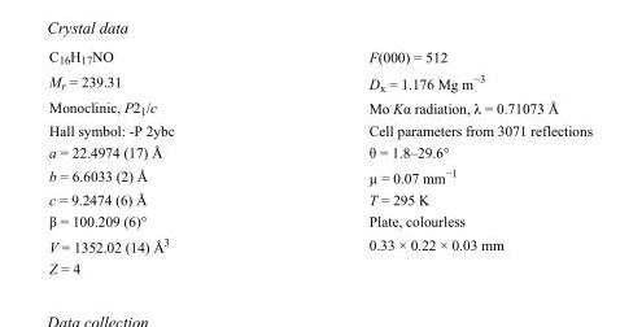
<table><tbody><tr><td>C<sub>16</sub>H<sub>17</sub>NO</td><td>F(000) = 512</td></tr><tr><td>M<sub>r</sub> = 239.31</td><td>D<sub>x</sub> = 1.176 Mg m<sup>−3</sup></td></tr><tr><td>Monoclinic, P2<sub>1</sub>/c</td><td>Mo Kα radiation, λ = 0.71073 Å</td></tr><tr><td>Hall symbol: -P 2ybc</td><td>Cell parameters from 3071 reflections</td></tr><tr><td>a = 22.4974 (17) Å</td><td>θ = 1.8–29.6°</td></tr><tr><td>b = 6.6033 (2) Å</td><td>µ = 0.07 mm<sup>−1</sup></td></tr><tr><td>c = 9.2474 (6) Å</td><td>T = 295 K</td></tr><tr><td>β = 100.209 (6)°</td><td>Plate, colourless</td></tr><tr><td>V = 1352.02 (14) Å<sup>3</sup></td><td>0.33 × 0.22 × 0.03 mm</td></tr><tr><td>Z = 4</td><td></td></tr></tbody></table>